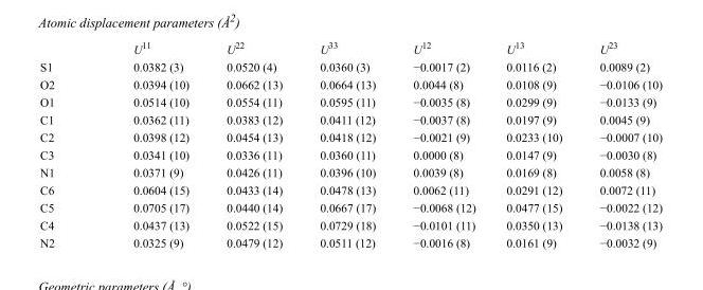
<table><thead><tr><td></td><td>U<sup>11</sup></td><td>U<sup>22</sup></td><td>U<sup>33</sup></td><td>U<sup>12</sup></td><td>U<sup>13</sup></td><td>U<sup>23</sup></td></tr></thead><tbody><tr><td>S1</td><td>0.0382 (3)</td><td>0.0520 (4)</td><td>0.0360 (3)</td><td>−0.0017 (2)</td><td>0.0116 (2)</td><td>0.0089 (2)</td></tr><tr><td>O2</td><td>0.0394 (10)</td><td>0.0662 (13)</td><td>0.0664 (13)</td><td>0.0044 (8)</td><td>0.0108 (9)</td><td>−0.0106 (10)</td></tr><tr><td>O1</td><td>0.0514 (10)</td><td>0.0554 (11)</td><td>0.0595 (11)</td><td>−0.0035 (8)</td><td>0.0299 (9)</td><td>−0.0133 (9)</td></tr><tr><td>C1</td><td>0.0362 (11)</td><td>0.0383 (12)</td><td>0.0411 (12)</td><td>−0.0037 (8)</td><td>0.0197 (9)</td><td>0.0045 (9)</td></tr><tr><td>C2</td><td>0.0398 (12)</td><td>0.0454 (13)</td><td>0.0418 (12)</td><td>−0.0021 (9)</td><td>0.0233 (10)</td><td>−0.0007 (10)</td></tr><tr><td>C3</td><td>0.0341 (10)</td><td>0.0336 (11)</td><td>0.0360 (11)</td><td>0.0000 (8)</td><td>0.0147 (9)</td><td>−0.0030 (8)</td></tr><tr><td>N1</td><td>0.0371 (9)</td><td>0.0426 (11)</td><td>0.0396 (10)</td><td>0.0039 (8)</td><td>0.0169 (8)</td><td>0.0058 (8)</td></tr><tr><td>C6</td><td>0.0604 (15)</td><td>0.0433 (14)</td><td>0.0478 (13)</td><td>0.0062 (11)</td><td>0.0291 (12)</td><td>0.0072 (11)</td></tr><tr><td>C5</td><td>0.0705 (17)</td><td>0.0440 (14)</td><td>0.0667 (17)</td><td>−0.0068 (12)</td><td>0.0477 (15)</td><td>−0.0022 (12)</td></tr><tr><td>C4</td><td>0.0437 (13)</td><td>0.0522 (15)</td><td>0.0729 (18)</td><td>−0.0101 (11)</td><td>0.0350 (13)</td><td>−0.0138 (13)</td></tr><tr><td>N2</td><td>0.0325 (9)</td><td>0.0479 (12)</td><td>0.0511 (12)</td><td>−0.0016 (8)</td><td>0.0161 (9)</td><td>−0.0032 (9)</td></tr></tbody></table>